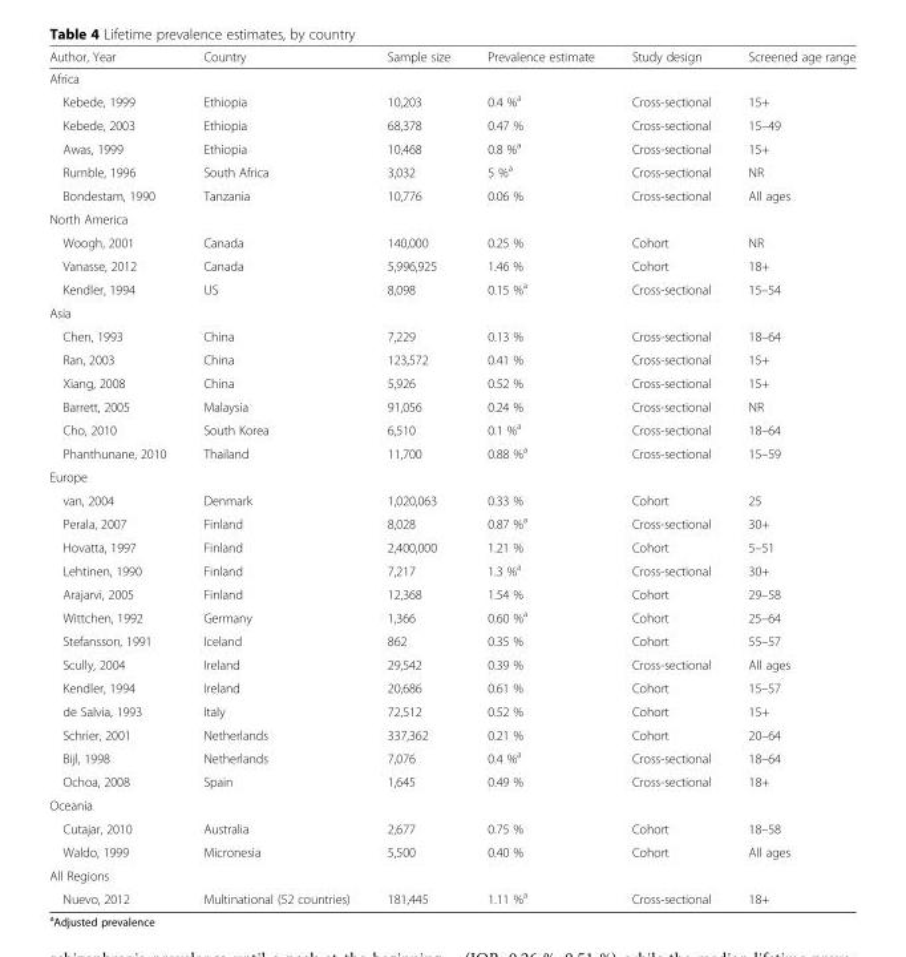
<table><thead><tr><td>Author, Year</td><td>Country</td><td>Sample size</td><td>Prevalence estimate</td><td>Study design</td><td>Screened age range</td></tr></thead><tbody><tr><td colspan="6">Africa</td></tr><tr><td>Kebede, 1999</td><td>Ethiopia</td><td>10,203</td><td>0.4 %<sup>a</sup></td><td>Cross-sectional</td><td>15+</td></tr><tr><td>Kebede, 2003</td><td>Ethiopia</td><td>68,378</td><td>0.47 %</td><td>Cross-sectional</td><td>15–49</td></tr><tr><td>Awas, 1999</td><td>Ethiopia</td><td>10,468</td><td>0.8 %<sup>a</sup></td><td>Cross-sectional</td><td>15+</td></tr><tr><td>Rumble, 1996</td><td>South Africa</td><td>3,032</td><td>5 %<sup>a</sup></td><td>Cross-sectional</td><td>NR</td></tr><tr><td>Bondestam, 1990</td><td>Tanzania</td><td>10,776</td><td>0.06 %</td><td>Cross-sectional</td><td>All ages</td></tr><tr><td colspan="6">North America</td></tr><tr><td>Woogh, 2001</td><td>Canada</td><td>140,000</td><td>0.25 %</td><td>Cohort</td><td>NR</td></tr><tr><td>Vanasse, 2012</td><td>Canada</td><td>5,996,925</td><td>1.46 %</td><td>Cohort</td><td>18+</td></tr><tr><td>Kendler, 1994</td><td>US</td><td>8,098</td><td>0.15 %<sup>a</sup></td><td>Cross-sectional</td><td>15–54</td></tr><tr><td colspan="6">Asia</td></tr><tr><td>Chen, 1993</td><td>China</td><td>7,229</td><td>0.13 %</td><td>Cross-sectional</td><td>18–64</td></tr><tr><td>Ran, 2003</td><td>China</td><td>123,572</td><td>0.41 %</td><td>Cross-sectional</td><td>15+</td></tr><tr><td>Xiang, 2008</td><td>China</td><td>5,926</td><td>0.52 %</td><td>Cross-sectional</td><td>15+</td></tr><tr><td>Barrett, 2005</td><td>Malaysia</td><td>91,056</td><td>0.24 %</td><td>Cross-sectional</td><td>NR</td></tr><tr><td>Cho, 2010</td><td>South Korea</td><td>6,510</td><td>0.1 %<sup>a</sup></td><td>Cross-sectional</td><td>18–64</td></tr><tr><td>Phanthunane, 2010</td><td>Thailand</td><td>11,700</td><td>0.88 %<sup>a</sup></td><td>Cross-sectional</td><td>15–59</td></tr><tr><td colspan="6">Europe</td></tr><tr><td>van, 2004</td><td>Denmark</td><td>1,020,063</td><td>0.33 %</td><td>Cohort</td><td>25</td></tr><tr><td>Perala, 2007</td><td>Finland</td><td>8,028</td><td>0.87 %<sup>a</sup></td><td>Cross-sectional</td><td>30+</td></tr><tr><td>Hovatta, 1997</td><td>Finland</td><td>2,400,000</td><td>1.21 %</td><td>Cohort</td><td>5–51</td></tr><tr><td>Lehtinen, 1990</td><td>Finland</td><td>7,217</td><td>1.3 %<sup>a</sup></td><td>Cross-sectional</td><td>30+</td></tr><tr><td>Arajarvi, 2005</td><td>Finland</td><td>12,368</td><td>1.54 %</td><td>Cohort</td><td>29–58</td></tr><tr><td>Wittchen, 1992</td><td>Germany</td><td>1,366</td><td>0.60 %<sup>a</sup></td><td>Cohort</td><td>25–64</td></tr><tr><td>Stefansson, 1991</td><td>Iceland</td><td>862</td><td>0.35 %</td><td>Cohort</td><td>55–57</td></tr><tr><td>Scully, 2004</td><td>Ireland</td><td>29,542</td><td>0.39 %</td><td>Cross-sectional</td><td>All ages</td></tr><tr><td>Kendler, 1994</td><td>Ireland</td><td>20,686</td><td>0.61 %</td><td>Cohort</td><td>15–57</td></tr><tr><td>de Salvia, 1993</td><td>Italy</td><td>72,512</td><td>0.52 %</td><td>Cohort</td><td>15+</td></tr><tr><td>Schrier, 2001</td><td>Netherlands</td><td>337,362</td><td>0.21 %</td><td>Cohort</td><td>20–64</td></tr><tr><td>Bijl, 1998</td><td>Netherlands</td><td>7,076</td><td>0.4 %<sup>a</sup></td><td>Cross-sectional</td><td>18–64</td></tr><tr><td>Ochoa, 2008</td><td>Spain</td><td>1,645</td><td>0.49 %</td><td>Cross-sectional</td><td>18+</td></tr><tr><td colspan="6">Oceania</td></tr><tr><td>Cutajar, 2010</td><td>Australia</td><td>2,677</td><td>0.75 %</td><td>Cohort</td><td>18–58</td></tr><tr><td>Waldo, 1999</td><td>Micronesia</td><td>5,500</td><td>0.40 %</td><td>Cohort</td><td>All ages</td></tr><tr><td colspan="6">All Regions</td></tr><tr><td>Nuevo, 2012</td><td>Multinational (52 countries)</td><td>181,445</td><td>1.11 %<sup>a</sup></td><td>Cross-sectional</td><td>18+</td></tr></tbody></table>